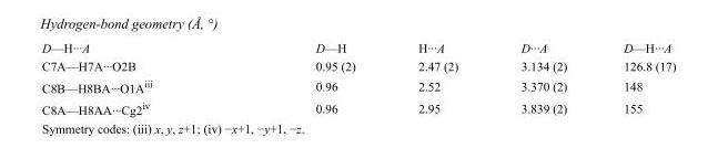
<table><tbody><tr><td>D—H···A</td><td>D—H</td><td>H···A</td><td>D···A</td><td>D—H···A</td></tr><tr><td>C7A—H7A···O2B</td><td>0.95 (2)</td><td>2.47 (2)</td><td>3.134 (2)</td><td>126.8 (17)</td></tr><tr><td>C8B—H8BA···O1A<sup>iii</sup></td><td>0.96</td><td>2.52</td><td>3.370 (2)</td><td>148</td></tr><tr><td>C8A—H8AA···Cg2<sup>iv</sup></td><td>0.96</td><td>2.95</td><td>3.839 (2)</td><td>155</td></tr></tbody></table>